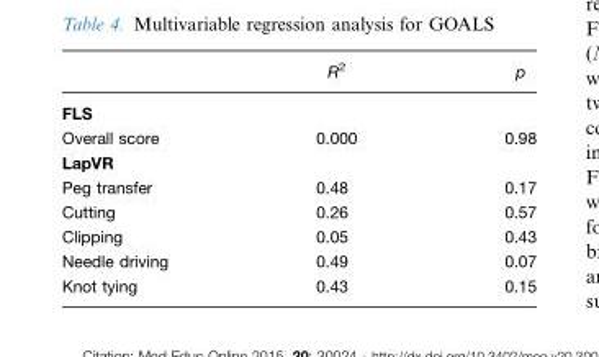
<table><thead><tr><td></td><td>R<sup>2</sup></td><td>p</td></tr></thead><tbody><tr><td colspan="3">FLS</td></tr><tr><td>Overall score</td><td>0.000</td><td>0.98</td></tr><tr><td colspan="3">LapVR</td></tr><tr><td>Peg transfer</td><td>0.48</td><td>0.17</td></tr><tr><td>Cutting</td><td>0.26</td><td>0.57</td></tr><tr><td>Clipping</td><td>0.05</td><td>0.43</td></tr><tr><td>Needle driving</td><td>0.49</td><td>0.07</td></tr><tr><td>Knot tying</td><td>0.43</td><td>0.15</td></tr></tbody></table>